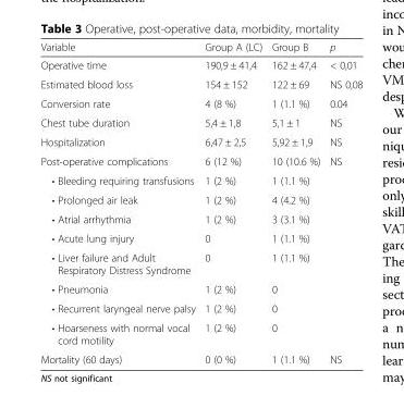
<table><thead><tr><td>Variable</td><td>Group A (LC)</td><td>Group B</td><td>p</td></tr></thead><tbody><tr><td>Operative time</td><td>190,9 ± 41,4</td><td>162 ± 47,4</td><td>&lt; 0,01</td></tr><tr><td>Estimated blood loss</td><td>154 ± 152</td><td>122 ± 69</td><td>NS 0,08</td></tr><tr><td>Conversion rate</td><td>4 (8 %)</td><td>1 (1.1 %)</td><td>0.04</td></tr><tr><td>Chest tube duration</td><td>5,4 ± 1,8</td><td>5,1 ± 1</td><td>NS</td></tr><tr><td>Hospitalization</td><td>6,47 ± 2,5</td><td>5,92 ± 1,9</td><td>NS</td></tr><tr><td>Post-operative complications</td><td>6 (12 %)</td><td>10 (10.6 %)</td><td rowspan="9">NS</td></tr><tr><td>• Bleeding requiring transfusions</td><td>1 (2 %)</td><td>1 (1.1 %)</td></tr><tr><td>• Prolonged air leak</td><td>1 (2 %)</td><td>4 (4.2 %)</td></tr><tr><td>• Atrial arrhythmia</td><td>1 (2 %)</td><td>3 (3.1 %)</td></tr><tr><td>• Acute lung injury</td><td>0</td><td>1 (1.1 %)</td></tr><tr><td>• Liver failure and Adult Respiratory Distress Syndrome</td><td>0</td><td>1 (1.1 %)</td></tr><tr><td>• Pneumonia</td><td>1 (2 %)</td><td>0</td></tr><tr><td>• Recurrent laryngeal nerve palsy</td><td>1 (2 %)</td><td>0</td></tr><tr><td>• Hoarseness with normal vocal cord motility</td><td>1 (2 %)</td><td>0</td></tr><tr><td>Mortality (60 days)</td><td>0 (0 %)</td><td>1 (1.1 %)</td><td>NS</td></tr></tbody></table>